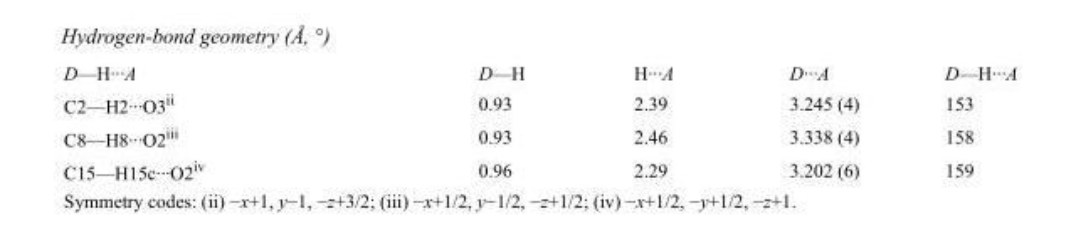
<table><tbody><tr><td>D—H···A</td><td>D—H</td><td>H···A</td><td>D···A</td><td>D—H···A</td></tr><tr><td>C2—H2···O3<sup>ii</sup></td><td>0.93</td><td>2.39</td><td>3.245 (4)</td><td>153</td></tr><tr><td>C8—H8···O2<sup>iii</sup></td><td>0.93</td><td>2.46</td><td>3.338 (4)</td><td>158</td></tr><tr><td>C15—H15c···O2<sup>iv</sup></td><td>0.96</td><td>2.29</td><td>3.202 (6)</td><td>159</td></tr></tbody></table>